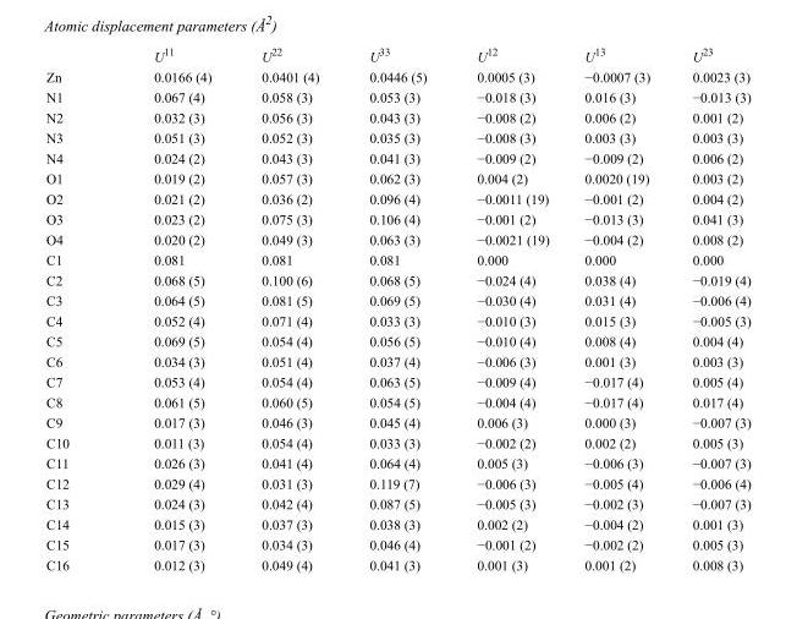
<table><thead><tr><td></td><td>U<sup>11</sup></td><td>U<sup>22</sup></td><td>U<sup>33</sup></td><td>U<sup>12</sup></td><td>U<sup>13</sup></td><td>U<sup>23</sup></td></tr></thead><tbody><tr><td>Zn</td><td>0.0166 (4)</td><td>0.0401 (4)</td><td>0.0446 (5)</td><td>0.0005 (3)</td><td>−0.0007 (3)</td><td>0.0023 (3)</td></tr><tr><td>N1</td><td>0.067 (4)</td><td>0.058 (3)</td><td>0.053 (3)</td><td>−0.018 (3)</td><td>0.016 (3)</td><td>−0.013 (3)</td></tr><tr><td>N2</td><td>0.032 (3)</td><td>0.056 (3)</td><td>0.043 (3)</td><td>−0.008 (2)</td><td>0.006 (2)</td><td>0.001 (2)</td></tr><tr><td>N3</td><td>0.051 (3)</td><td>0.052 (3)</td><td>0.035 (3)</td><td>−0.008 (3)</td><td>0.003 (3)</td><td>0.003 (3)</td></tr><tr><td>N4</td><td>0.024 (2)</td><td>0.043 (3)</td><td>0.041 (3)</td><td>−0.009 (2)</td><td>−0.009 (2)</td><td>0.006 (2)</td></tr><tr><td>O1</td><td>0.019 (2)</td><td>0.057 (3)</td><td>0.062 (3)</td><td>0.004 (2)</td><td>0.0020 (19)</td><td>0.003 (2)</td></tr><tr><td>O2</td><td>0.021 (2)</td><td>0.036 (2)</td><td>0.096 (4)</td><td>−0.0011 (19)</td><td>−0.001 (2)</td><td>0.004 (2)</td></tr><tr><td>O3</td><td>0.023 (2)</td><td>0.075 (3)</td><td>0.106 (4)</td><td>−0.001 (2)</td><td>−0.013 (3)</td><td>0.041 (3)</td></tr><tr><td>O4</td><td>0.020 (2)</td><td>0.049 (3)</td><td>0.063 (3)</td><td>−0.0021 (19)</td><td>−0.004 (2)</td><td>0.008 (2)</td></tr><tr><td>C1</td><td>0.081</td><td>0.081</td><td>0.081</td><td>0.000</td><td>0.000</td><td>0.000</td></tr><tr><td>C2</td><td>0.068 (5)</td><td>0.100 (6)</td><td>0.068 (5)</td><td>−0.024 (4)</td><td>0.038 (4)</td><td>−0.019 (4)</td></tr><tr><td>C3</td><td>0.064 (5)</td><td>0.081 (5)</td><td>0.069 (5)</td><td>−0.030 (4)</td><td>0.031 (4)</td><td>−0.006 (4)</td></tr><tr><td>C4</td><td>0.052 (4)</td><td>0.071 (4)</td><td>0.033 (3)</td><td>−0.010 (3)</td><td>0.015 (3)</td><td>−0.005 (3)</td></tr><tr><td>C5</td><td>0.069 (5)</td><td>0.054 (4)</td><td>0.056 (5)</td><td>−0.010 (4)</td><td>0.008 (4)</td><td>0.004 (4)</td></tr><tr><td>C6</td><td>0.034 (3)</td><td>0.051 (4)</td><td>0.037 (4)</td><td>−0.006 (3)</td><td>0.001 (3)</td><td>0.003 (3)</td></tr><tr><td>C7</td><td>0.053 (4)</td><td>0.054 (4)</td><td>0.063 (5)</td><td>−0.009 (4)</td><td>−0.017 (4)</td><td>0.005 (4)</td></tr><tr><td>C8</td><td>0.061 (5)</td><td>0.060 (5)</td><td>0.054 (5)</td><td>−0.004 (4)</td><td>−0.017 (4)</td><td>0.017 (4)</td></tr><tr><td>C9</td><td>0.017 (3)</td><td>0.046 (3)</td><td>0.045 (4)</td><td>0.006 (3)</td><td>0.000 (3)</td><td>−0.007 (3)</td></tr><tr><td>C10</td><td>0.011 (3)</td><td>0.054 (4)</td><td>0.033 (3)</td><td>−0.002 (2)</td><td>0.002 (2)</td><td>0.005 (3)</td></tr><tr><td>C11</td><td>0.026 (3)</td><td>0.041 (4)</td><td>0.064 (4)</td><td>0.005 (3)</td><td>−0.006 (3)</td><td>−0.007 (3)</td></tr><tr><td>C12</td><td>0.029 (4)</td><td>0.031 (3)</td><td>0.119 (7)</td><td>−0.006 (3)</td><td>−0.005 (4)</td><td>−0.006 (4)</td></tr><tr><td>C13</td><td>0.024 (3)</td><td>0.042 (4)</td><td>0.087 (5)</td><td>−0.005 (3)</td><td>−0.002 (3)</td><td>−0.007 (3)</td></tr><tr><td>C14</td><td>0.015 (3)</td><td>0.037 (3)</td><td>0.038 (3)</td><td>0.002 (2)</td><td>−0.004 (2)</td><td>0.001 (3)</td></tr><tr><td>C15</td><td>0.017 (3)</td><td>0.034 (3)</td><td>0.046 (4)</td><td>−0.001 (2)</td><td>−0.002 (2)</td><td>0.005 (3)</td></tr><tr><td>C16</td><td>0.012 (3)</td><td>0.049 (4)</td><td>0.041 (3)</td><td>0.001 (3)</td><td>0.001 (2)</td><td>0.008 (3)</td></tr></tbody></table>